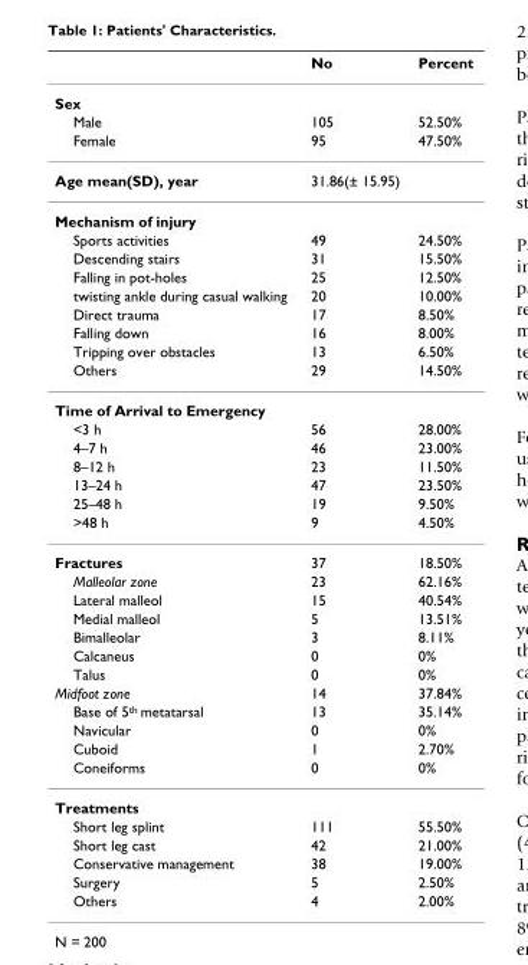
<table><thead><tr><td></td><td>No</td><td>Percent</td></tr></thead><tbody><tr><td colspan="3">Sex</td></tr><tr><td>Male</td><td>105</td><td>52.50%</td></tr><tr><td>Female</td><td>95</td><td>47.50%</td></tr><tr><td>Age mean(SD), year</td><td>31.86(± 15.95)</td><td></td></tr><tr><td colspan="3">Mechanism of injury</td></tr><tr><td>Sports activities</td><td>49</td><td>24.50%</td></tr><tr><td>Descending stairs</td><td>31</td><td>15.50%</td></tr><tr><td>Falling in pot-holes</td><td>25</td><td>12.50%</td></tr><tr><td>twisting ankle during casual walking</td><td>20</td><td>10.00%</td></tr><tr><td>Direct trauma</td><td>17</td><td>8.50%</td></tr><tr><td>Falling down</td><td>16</td><td>8.00%</td></tr><tr><td>Tripping over obstacles</td><td>13</td><td>6.50%</td></tr><tr><td>Others</td><td>29</td><td>14.50%</td></tr><tr><td colspan="3">Time of Arrival to Emergency</td></tr><tr><td>&lt;3 h</td><td>56</td><td>28.00%</td></tr><tr><td>4–7 h</td><td>46</td><td>23.00%</td></tr><tr><td>8–12 h</td><td>23</td><td>11.50%</td></tr><tr><td>13–24 h</td><td>47</td><td>23.50%</td></tr><tr><td>25–48 h</td><td>19</td><td>9.50%</td></tr><tr><td>&gt;48 h</td><td>9</td><td>4.50%</td></tr><tr><td>Fractures</td><td>37</td><td>18.50%</td></tr><tr><td>Malleolar zone</td><td>23</td><td>62.16%</td></tr><tr><td>Lateral malleol</td><td>15</td><td>40.54%</td></tr><tr><td>Medial malleol</td><td>5</td><td>13.51%</td></tr><tr><td>Bimalleolar</td><td>3</td><td>8.11%</td></tr><tr><td>Calcaneus</td><td>0</td><td>0%</td></tr><tr><td>Talus</td><td>0</td><td>0%</td></tr><tr><td>Midfoot zone</td><td>14</td><td>37.84%</td></tr><tr><td>Base of 5<sup>th</sup> metatarsal</td><td>13</td><td>35.14%</td></tr><tr><td>Navicular</td><td>0</td><td>0%</td></tr><tr><td>Cuboid</td><td>1</td><td>2.70%</td></tr><tr><td>Coneiforms</td><td>0</td><td>0%</td></tr><tr><td colspan="3">Treatments</td></tr><tr><td>Short leg splint</td><td>111</td><td>55.50%</td></tr><tr><td>Short leg cast</td><td>42</td><td>21.00%</td></tr><tr><td>Conservative management</td><td>38</td><td>19.00%</td></tr><tr><td>Surgery</td><td>5</td><td>2.50%</td></tr><tr><td>Others</td><td>4</td><td>2.00%</td></tr></tbody></table>